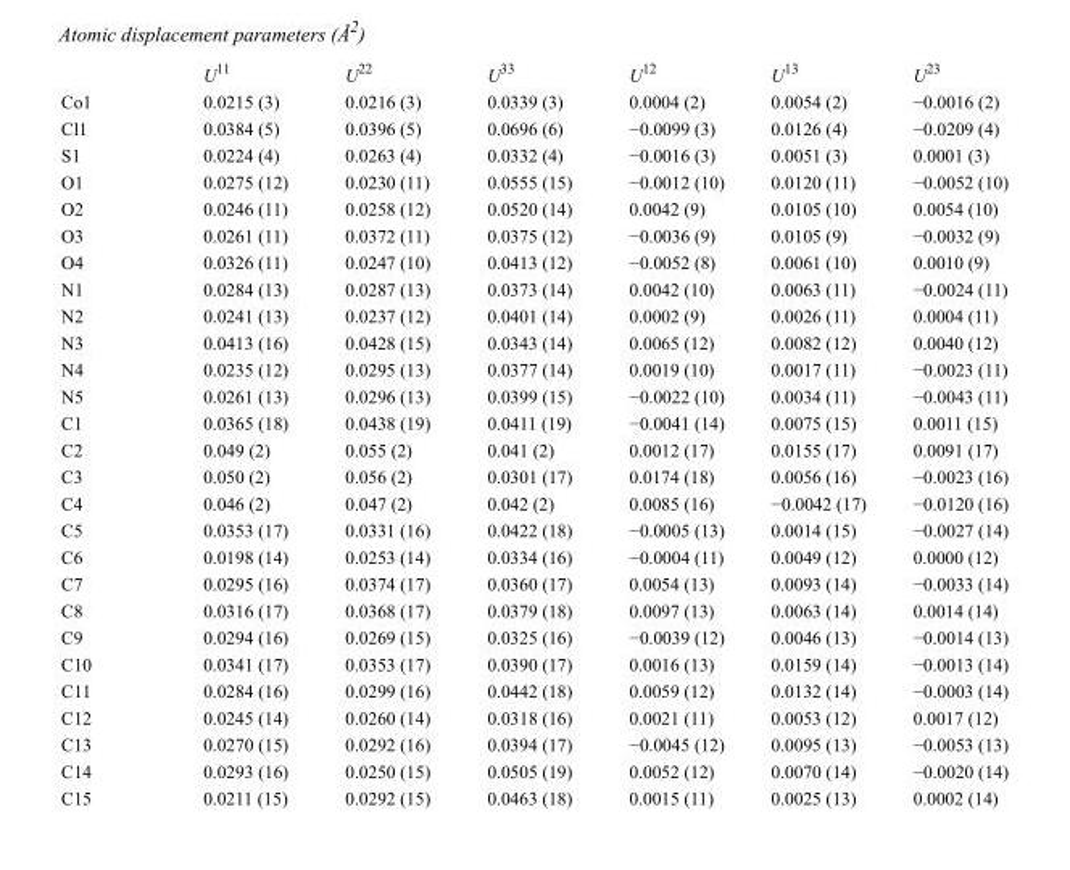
<table><thead><tr><td></td><td>U<sup>11</sup></td><td>U<sup>22</sup></td><td>U<sup>33</sup></td><td>U<sup>12</sup></td><td>U<sup>13</sup></td><td>U<sup>23</sup></td></tr></thead><tbody><tr><td>Co1</td><td>0.0215 (3)</td><td>0.0216 (3)</td><td>0.0339 (3)</td><td>0.0004 (2)</td><td>0.0054 (2)</td><td>−0.0016 (2)</td></tr><tr><td>Cl1</td><td>0.0384 (5)</td><td>0.0396 (5)</td><td>0.0696 (6)</td><td>−0.0099 (3)</td><td>0.0126 (4)</td><td>−0.0209 (4)</td></tr><tr><td>S1</td><td>0.0224 (4)</td><td>0.0263 (4)</td><td>0.0332 (4)</td><td>−0.0016 (3)</td><td>0.0051 (3)</td><td>0.0001 (3)</td></tr><tr><td>O1</td><td>0.0275 (12)</td><td>0.0230 (11)</td><td>0.0555 (15)</td><td>−0.0012 (10)</td><td>0.0120 (11)</td><td>−0.0052 (10)</td></tr><tr><td>O2</td><td>0.0246 (11)</td><td>0.0258 (12)</td><td>0.0520 (14)</td><td>0.0042 (9)</td><td>0.0105 (10)</td><td>0.0054 (10)</td></tr><tr><td>O3</td><td>0.0261 (11)</td><td>0.0372 (11)</td><td>0.0375 (12)</td><td>−0.0036 (9)</td><td>0.0105 (9)</td><td>−0.0032 (9)</td></tr><tr><td>O4</td><td>0.0326 (11)</td><td>0.0247 (10)</td><td>0.0413 (12)</td><td>−0.0052 (8)</td><td>0.0061 (10)</td><td>0.0010 (9)</td></tr><tr><td>N1</td><td>0.0284 (13)</td><td>0.0287 (13)</td><td>0.0373 (14)</td><td>0.0042 (10)</td><td>0.0063 (11)</td><td>−0.0024 (11)</td></tr><tr><td>N2</td><td>0.0241 (13)</td><td>0.0237 (12)</td><td>0.0401 (14)</td><td>0.0002 (9)</td><td>0.0026 (11)</td><td>0.0004 (11)</td></tr><tr><td>N3</td><td>0.0413 (16)</td><td>0.0428 (15)</td><td>0.0343 (14)</td><td>0.0065 (12)</td><td>0.0082 (12)</td><td>0.0040 (12)</td></tr><tr><td>N4</td><td>0.0235 (12)</td><td>0.0295 (13)</td><td>0.0377 (14)</td><td>0.0019 (10)</td><td>0.0017 (11)</td><td>−0.0023 (11)</td></tr><tr><td>N5</td><td>0.0261 (13)</td><td>0.0296 (13)</td><td>0.0399 (15)</td><td>−0.0022 (10)</td><td>0.0034 (11)</td><td>−0.0043 (11)</td></tr><tr><td>C1</td><td>0.0365 (18)</td><td>0.0438 (19)</td><td>0.0411 (19)</td><td>−0.0041 (14)</td><td>0.0075 (15)</td><td>0.0011 (15)</td></tr><tr><td>C2</td><td>0.049 (2)</td><td>0.055 (2)</td><td>0.041 (2)</td><td>0.0012 (17)</td><td>0.0155 (17)</td><td>0.0091 (17)</td></tr><tr><td>C3</td><td>0.050 (2)</td><td>0.056 (2)</td><td>0.0301 (17)</td><td>0.0174 (18)</td><td>0.0056 (16)</td><td>−0.0023 (16)</td></tr><tr><td>C4</td><td>0.046 (2)</td><td>0.047 (2)</td><td>0.042 (2)</td><td>0.0085 (16)</td><td>−0.0042 (17)</td><td>−0.0120 (16)</td></tr><tr><td>C5</td><td>0.0353 (17)</td><td>0.0331 (16)</td><td>0.0422 (18)</td><td>−0.0005 (13)</td><td>0.0014 (15)</td><td>−0.0027 (14)</td></tr><tr><td>C6</td><td>0.0198 (14)</td><td>0.0253 (14)</td><td>0.0334 (16)</td><td>−0.0004 (11)</td><td>0.0049 (12)</td><td>0.0000 (12)</td></tr><tr><td>C7</td><td>0.0295 (16)</td><td>0.0374 (17)</td><td>0.0360 (17)</td><td>0.0054 (13)</td><td>0.0093 (14)</td><td>−0.0033 (14)</td></tr><tr><td>C8</td><td>0.0316 (17)</td><td>0.0368 (17)</td><td>0.0379 (18)</td><td>0.0097 (13)</td><td>0.0063 (14)</td><td>0.0014 (14)</td></tr><tr><td>C9</td><td>0.0294 (16)</td><td>0.0269 (15)</td><td>0.0325 (16)</td><td>−0.0039 (12)</td><td>0.0046 (13)</td><td>−0.0014 (13)</td></tr><tr><td>C10</td><td>0.0341 (17)</td><td>0.0353 (17)</td><td>0.0390 (17)</td><td>0.0016 (13)</td><td>0.0159 (14)</td><td>−0.0013 (14)</td></tr><tr><td>C11</td><td>0.0284 (16)</td><td>0.0299 (16)</td><td>0.0442 (18)</td><td>0.0059 (12)</td><td>0.0132 (14)</td><td>−0.0003 (14)</td></tr><tr><td>C12</td><td>0.0245 (14)</td><td>0.0260 (14)</td><td>0.0318 (16)</td><td>0.0021 (11)</td><td>0.0053 (12)</td><td>0.0017 (12)</td></tr><tr><td>C13</td><td>0.0270 (15)</td><td>0.0292 (16)</td><td>0.0394 (17)</td><td>−0.0045 (12)</td><td>0.0095 (13)</td><td>−0.0053 (13)</td></tr><tr><td>C14</td><td>0.0293 (16)</td><td>0.0250 (15)</td><td>0.0505 (19)</td><td>0.0052 (12)</td><td>0.0070 (14)</td><td>−0.0020 (14)</td></tr><tr><td>C15</td><td>0.0211 (15)</td><td>0.0292 (15)</td><td>0.0463 (18)</td><td>0.0015 (11)</td><td>0.0025 (13)</td><td>0.0002 (14)</td></tr></tbody></table>